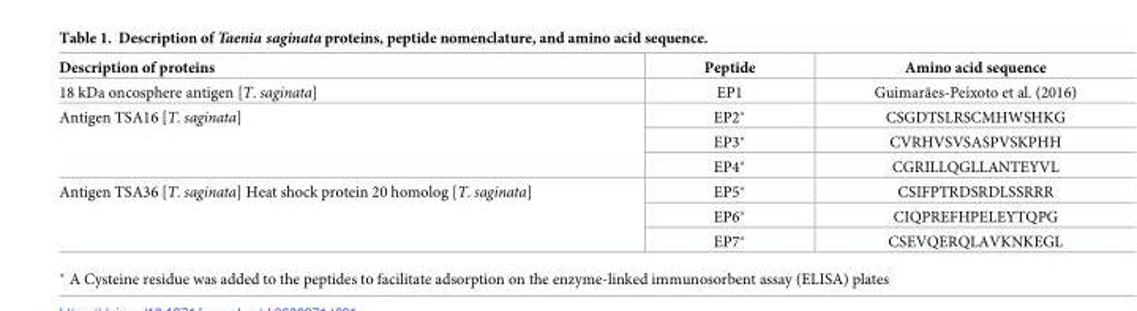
<table><thead><tr><td>Description of proteins</td><td>Peptide</td><td>Amino acid sequence</td></tr></thead><tbody><tr><td>18 kDa oncosphere antigen [T. saginata]</td><td>EP1</td><td>Guimarães-Peixoto et al. (2016)</td></tr><tr><td rowspan="3">Antigen TSA16 [T. saginata]</td><td>EP2*</td><td>CSGDTSLRSCMHWSHKG</td></tr><tr><td>EP3*</td><td>CVRHVSVSASPVSKPHH</td></tr><tr><td>EP4*</td><td>CGRILLQGLLANTEYVL</td></tr><tr><td rowspan="3">Antigen TSA36 [T. saginata] Heat shock protein 20 homolog [T. saginata]</td><td>EP5*</td><td>CSIFPTRDSRDLSSRRR</td></tr><tr><td>EP6*</td><td>CIQPREFHPELEYTQPG</td></tr><tr><td>EP7*</td><td>CSEVQERQLAVKNKEGL</td></tr></tbody></table>